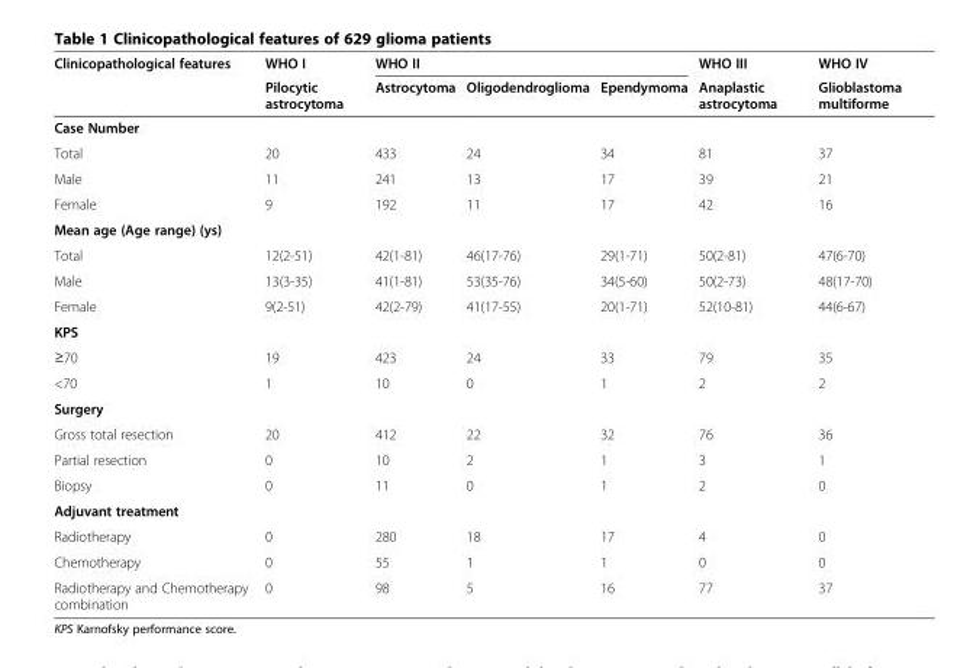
<table><thead><tr><td rowspan="2">Clinicopathological features</td><td rowspan="2">WHO I Pilocytic astrocytoma</td><td colspan="3">WHO II</td><td rowspan="2">WHO III Anaplastic astrocytoma</td><td rowspan="2">WHO IV Glioblastoma multiforme</td></tr><tr><td>Astrocytoma</td><td>Oligodendroglioma</td><td>Ependymoma</td></tr></thead><tbody><tr><td colspan="7">Case Number</td></tr><tr><td>Total</td><td>20</td><td>433</td><td>24</td><td>34</td><td>81</td><td>37</td></tr><tr><td>Male</td><td>11</td><td>241</td><td>13</td><td>17</td><td>39</td><td>21</td></tr><tr><td>Female</td><td>9</td><td>192</td><td>11</td><td>17</td><td>42</td><td>16</td></tr><tr><td colspan="7">Mean age (Age range) (ys)</td></tr><tr><td>Total</td><td>12(2-51)</td><td>42(1-81)</td><td>46(17-76)</td><td>29(1-71)</td><td>50(2-81)</td><td>47(6-70)</td></tr><tr><td>Male</td><td>13(3-35)</td><td>41(1-81)</td><td>53(35-76)</td><td>34(5-60)</td><td>50(2-73)</td><td>48(17-70)</td></tr><tr><td>Female</td><td>9(2-51)</td><td>42(2-79)</td><td>41(17-55)</td><td>20(1-71)</td><td>52(10-81)</td><td>44(6-67)</td></tr><tr><td colspan="7">KPS</td></tr><tr><td>≥70</td><td>19</td><td>423</td><td>24</td><td>33</td><td>79</td><td>35</td></tr><tr><td>&lt;70</td><td>1</td><td>10</td><td>0</td><td>1</td><td>2</td><td>2</td></tr><tr><td colspan="7">Surgery</td></tr><tr><td>Gross total resection</td><td>20</td><td>412</td><td>22</td><td>32</td><td>76</td><td>36</td></tr><tr><td>Partial resection</td><td>0</td><td>10</td><td>2</td><td>1</td><td>3</td><td>1</td></tr><tr><td>Biopsy</td><td>0</td><td>11</td><td>0</td><td>1</td><td>2</td><td>0</td></tr><tr><td colspan="7">Adjuvant treatment</td></tr><tr><td>Radiotherapy</td><td>0</td><td>280</td><td>18</td><td>17</td><td>4</td><td>0</td></tr><tr><td>Chemotherapy</td><td>0</td><td>55</td><td>1</td><td>1</td><td>0</td><td>0</td></tr><tr><td>Radiotherapy and Chemotherapy combination</td><td>0</td><td>98</td><td>5</td><td>16</td><td>77</td><td>37</td></tr></tbody></table>